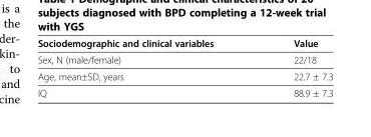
<table><thead><tr><td>Sociodemographic and clinical variables</td><td>Value</td></tr></thead><tbody><tr><td>Sex, N (male/female)</td><td>22/18</td></tr><tr><td>Age, mean±SD, years</td><td>22.7 ± 7.3</td></tr><tr><td>IQ</td><td>88.9 ± 7.3</td></tr></tbody></table>